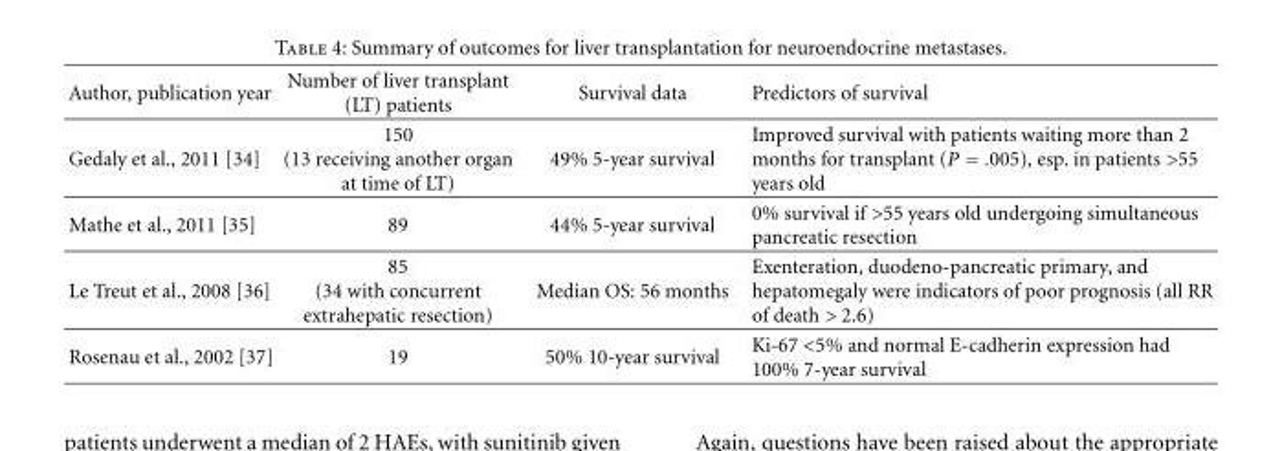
<table><thead><tr><td>Author, publication year</td><td>Number of liver transplant (LT) patients</td><td>Survival data</td><td>Predictors of survival</td></tr></thead><tbody><tr><td>Gedaly et al., 2011 [34]</td><td>150 (13 receiving another organ at time of LT)</td><td>49% 5-year survival</td><td>Improved survival with patients waiting more than 2 months for transplant (P = .005), esp. in patients &gt;55 years old</td></tr><tr><td>Mathe et al., 2011 [35]</td><td>89</td><td>44% 5-year survival</td><td>0% survival if &gt;55 years old undergoing simultaneous pancreatic resection</td></tr><tr><td>Le Treut et al., 2008 [36]</td><td>85 (34 with concurrent extrahepatic resection)</td><td>Median OS: 56 months</td><td>Exenteration, duodeno-pancreatic primary, and hepatomegaly were indicators of poor prognosis (all RR of death &gt; 2.6)</td></tr><tr><td>Rosenau et al., 2002 [37]</td><td>19</td><td>50% 10-year survival</td><td>Ki-67 &lt;5% and normal E-cadherin expression had 100% 7-year survival</td></tr></tbody></table>